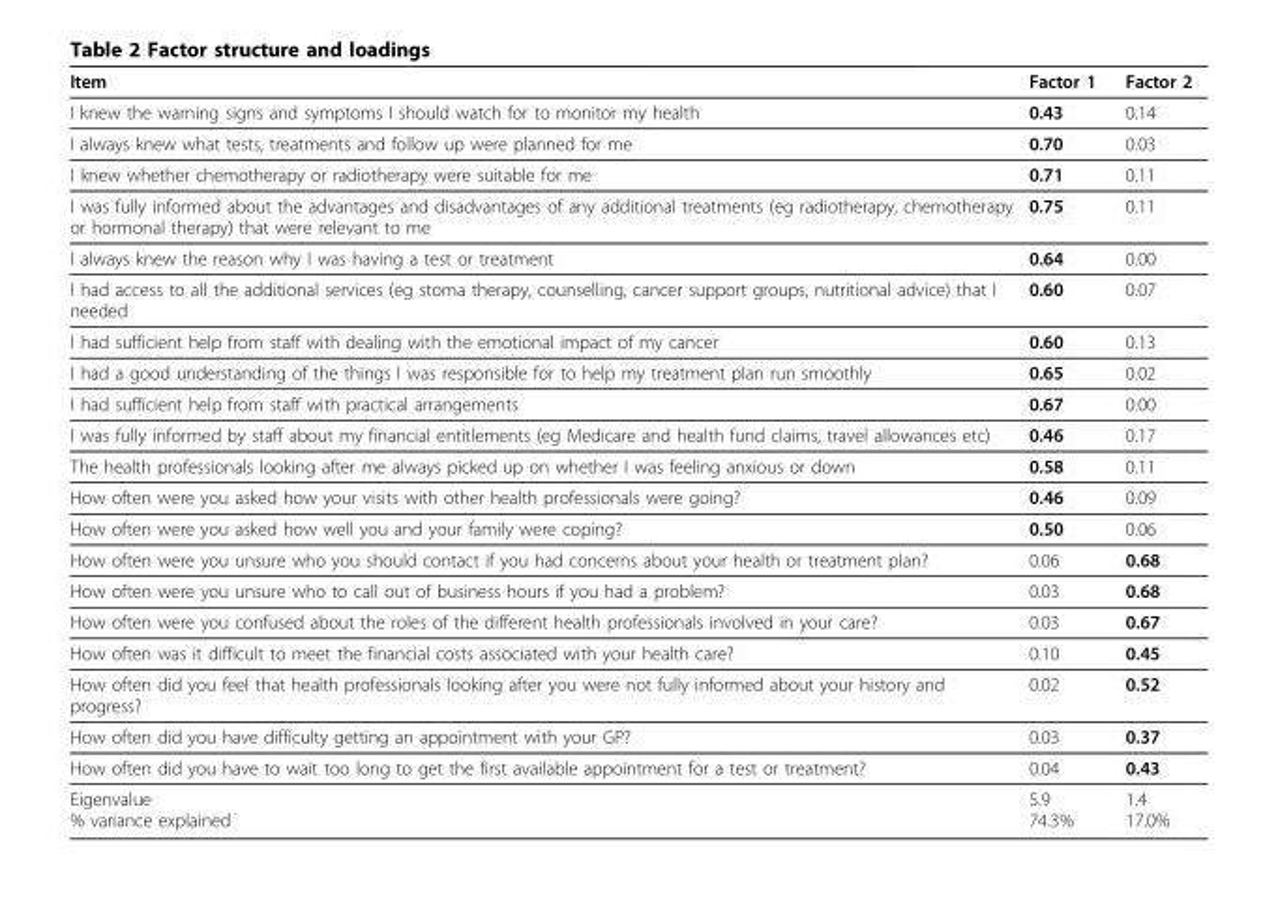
<table><thead><tr><td>Item</td><td>Factor 1</td><td>Factor 2</td></tr></thead><tbody><tr><td>I knew the warning signs and symptoms I should watch for to monitor my health</td><td>0.43</td><td>0.14</td></tr><tr><td>I always knew what tests, treatments and follow up were planned for me</td><td>0.70</td><td>0.03</td></tr><tr><td>I knew whether chemotherapy or radiotherapy were suitable for me</td><td>0.71</td><td>0.11</td></tr><tr><td>I was fully informed about the advantages and disadvantages of any additional treatments (eg radiotherapy, chemotherapy or hormonal therapy) that were relevant to me</td><td>0.75</td><td>0.11</td></tr><tr><td>I always knew the reason why I was having a test or treatment</td><td>0.64</td><td>0.00</td></tr><tr><td>I had access to all the additional services (eg stoma therapy, counselling, cancer support groups, nutritional advice) that I needed</td><td>0.60</td><td>0.07</td></tr><tr><td>I had sufficient help from staff with dealing with the emotional impact of my cancer</td><td>0.60</td><td>0.13</td></tr><tr><td>I had a good understanding of the things I was responsible for to help my treatment plan run smoothly</td><td>0.65</td><td>0.02</td></tr><tr><td>I had sufficient help from staff with practical arrangements</td><td>0.67</td><td>0.00</td></tr><tr><td>I was fully informed by staff about my financial entitlements (eg Medicare and health fund claims, travel allowances etc)</td><td>0.46</td><td>0.17</td></tr><tr><td>The health professionals looking after me always picked up on whether I was feeling anxious or down</td><td>0.58</td><td>0.11</td></tr><tr><td>How often were you asked how your visits with other health professionals were going?</td><td>0.46</td><td>0.09</td></tr><tr><td>How often were you asked how well you and your family were coping?</td><td>0.50</td><td>0.06</td></tr><tr><td>How often were you unsure who you should contact if you had concerns about your health or treatment plan?</td><td>0.06</td><td>0.68</td></tr><tr><td>How often were you unsure who to call out of business hours if you had a problem?</td><td>0.03</td><td>0.68</td></tr><tr><td>How often were you confused about the roles of the different health professionals involved in your care?</td><td>0.03</td><td>0.67</td></tr><tr><td>How often was it difficult to meet the financial costs associated with your health care?</td><td>0.10</td><td>0.45</td></tr><tr><td>How often did you feel that health professionals looking after you were not fully informed about your history and progress?</td><td>0.02</td><td>0.52</td></tr><tr><td>How often did you have difficulty getting an appointment with your GP?</td><td>0.03</td><td>0.37</td></tr><tr><td>How often did you have to wait too long to get the first available appointment for a test or treatment?</td><td>0.04</td><td>0.43</td></tr><tr><td>Eigenvalue % variance explained</td><td>5.9 74.3%</td><td>1.4 17.0%</td></tr></tbody></table>